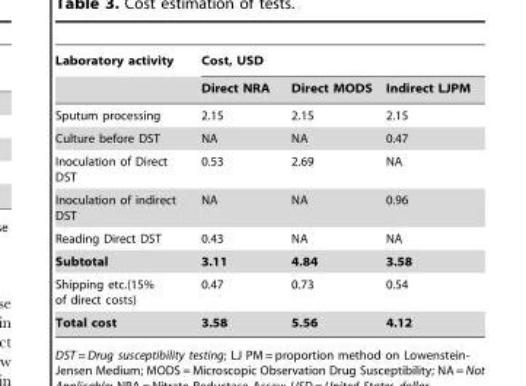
<table><thead><tr><td rowspan="2">Laboratory activity</td><td colspan="3">Cost, USD</td></tr><tr><td>Direct NRA</td><td>Direct MODS</td><td>Indirect LJPM</td></tr></thead><tbody><tr><td>Sputum processing</td><td>2.15</td><td>2.15</td><td>2.15</td></tr><tr><td>Culture before DST</td><td>NA</td><td>NA</td><td>0.47</td></tr><tr><td>Inoculation of Direct DST</td><td>0.53</td><td>2.69</td><td>NA</td></tr><tr><td>Inoculation of indirect DST</td><td>NA</td><td>NA</td><td>0.96</td></tr><tr><td>Reading Direct DST</td><td>0.43</td><td>NA</td><td>NA</td></tr><tr><td>Subtotal</td><td>3.11</td><td>4.84</td><td>3.58</td></tr><tr><td>Shipping etc.(15% of direct costs)</td><td>0.47</td><td>0.73</td><td>0.54</td></tr><tr><td>Total cost</td><td>3.58</td><td>5.56</td><td>4.12</td></tr></tbody></table>